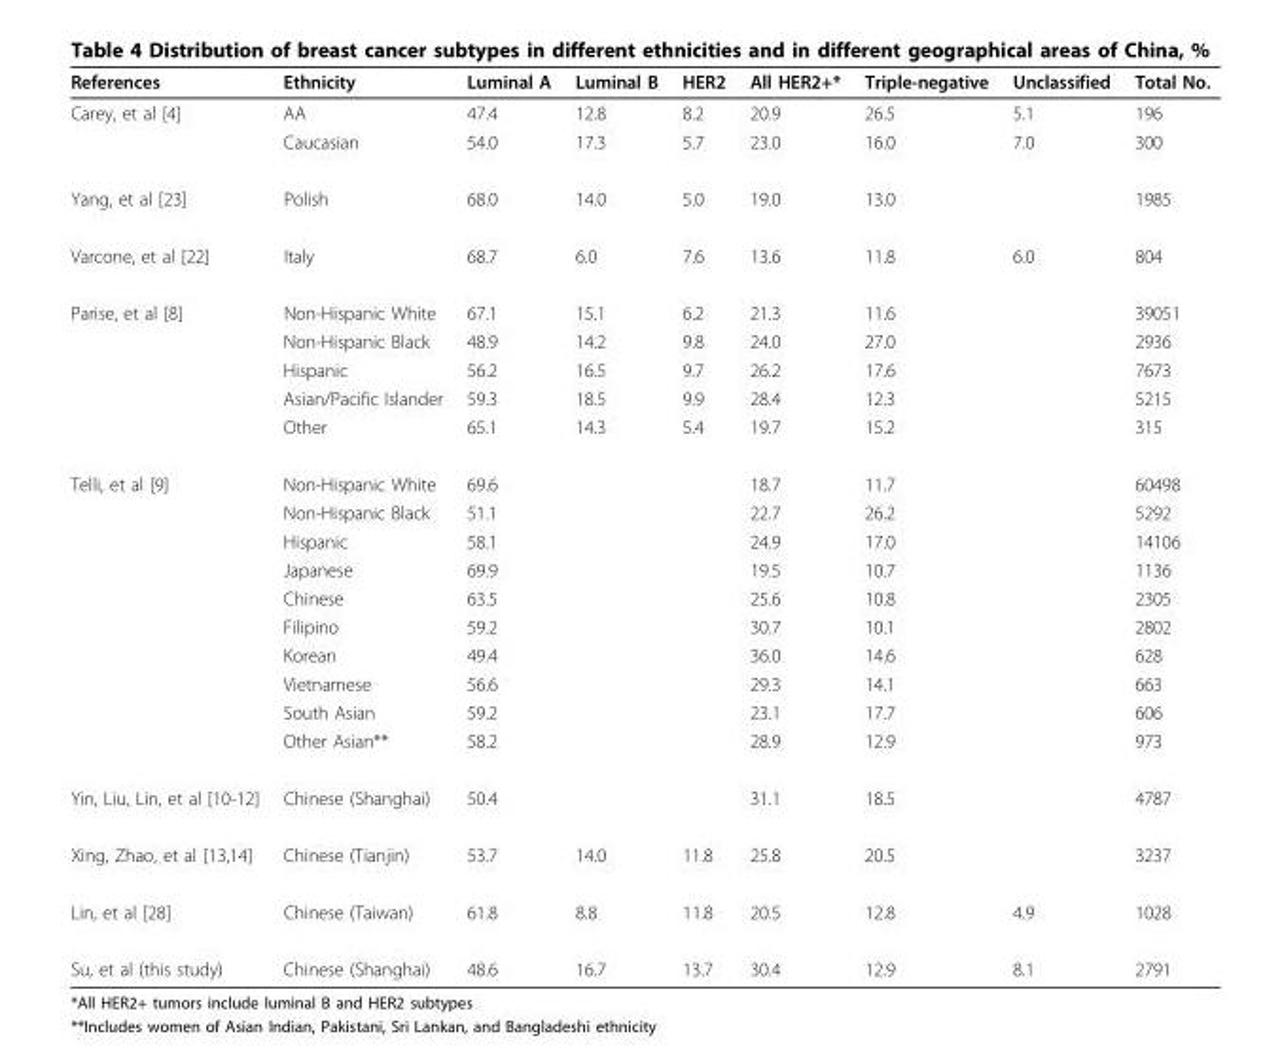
<table><thead><tr><td>References</td><td>Ethnicity</td><td>Luminal A</td><td>Luminal B</td><td>HER2</td><td>All HER2+*</td><td>Triple-negative</td><td>Unclassified</td><td>Total No.</td></tr></thead><tbody><tr><td rowspan="2">Carey, et al [4]</td><td>AA</td><td>47.4</td><td>12.8</td><td>8.2</td><td>20.9</td><td>26.5</td><td>5.1</td><td>196</td></tr><tr><td>Caucasian</td><td>54.0</td><td>17.3</td><td>5.7</td><td>23.0</td><td>16.0</td><td>7.0</td><td>300</td></tr><tr><td>Yang, et al [23]</td><td>Polish</td><td>68.0</td><td>14.0</td><td>5.0</td><td>19.0</td><td>13.0</td><td></td><td>1985</td></tr><tr><td>Varcone, et al [22]</td><td>Italy</td><td>68.7</td><td>6.0</td><td>7.6</td><td>13.6</td><td>11.8</td><td>6.0</td><td>804</td></tr><tr><td rowspan="5">Parise, et al [8]</td><td>Non-Hispanic White</td><td>67.1</td><td>15.1</td><td>6.2</td><td>21.3</td><td>11.6</td><td></td><td>39051</td></tr><tr><td>Non-Hispanic Black</td><td>48.9</td><td>14.2</td><td>9.8</td><td>24.0</td><td>27.0</td><td></td><td>2936</td></tr><tr><td>Hispanic</td><td>56.2</td><td>16.5</td><td>9.7</td><td>26.2</td><td>17.6</td><td></td><td>7673</td></tr><tr><td>Asian/Pacific Islander</td><td>59.3</td><td>18.5</td><td>9.9</td><td>28.4</td><td>12.3</td><td></td><td>5215</td></tr><tr><td>Other</td><td>65.1</td><td>14.3</td><td>5.4</td><td>19.7</td><td>15.2</td><td></td><td>315</td></tr><tr><td rowspan="10">Telli, et al [9]</td><td>Non-Hispanic White</td><td>69.6</td><td></td><td></td><td>18.7</td><td>11.7</td><td></td><td>60498</td></tr><tr><td>Non-Hispanic Black</td><td>51.1</td><td></td><td></td><td>22.7</td><td>26.2</td><td></td><td>5292</td></tr><tr><td>Hispanic</td><td>58.1</td><td></td><td></td><td>24.9</td><td>17.0</td><td></td><td>14106</td></tr><tr><td>Japanese</td><td>69.9</td><td></td><td></td><td>19.5</td><td>10.7</td><td></td><td>1136</td></tr><tr><td>Chinese</td><td>63.5</td><td></td><td></td><td>25.6</td><td>10.8</td><td></td><td>2305</td></tr><tr><td>Filipino</td><td>59.2</td><td></td><td></td><td>30.7</td><td>10.1</td><td></td><td>2802</td></tr><tr><td>Korean</td><td>49.4</td><td></td><td></td><td>36.0</td><td>14.6</td><td></td><td>628</td></tr><tr><td>Vietnamese</td><td>56.6</td><td></td><td></td><td>29.3</td><td>14.1</td><td></td><td>663</td></tr><tr><td>South Asian</td><td>59.2</td><td></td><td></td><td>23.1</td><td>17.7</td><td></td><td>606</td></tr><tr><td>Other Asian**</td><td>58.2</td><td></td><td></td><td>28.9</td><td>12.9</td><td></td><td>973</td></tr><tr><td>Yin, Liu, Lin, et al [10-12]</td><td>Chinese (Shanghai)</td><td>50.4</td><td></td><td></td><td>31.1</td><td>18.5</td><td></td><td>4787</td></tr><tr><td>Xing, Zhao, et al [13,14]</td><td>Chinese (Tianjin)</td><td>53.7</td><td>14.0</td><td>11.8</td><td>25.8</td><td>20.5</td><td></td><td>3237</td></tr><tr><td>Lin, et al [28]</td><td>Chinese (Taiwan)</td><td>61.8</td><td>8.8</td><td>11.8</td><td>20.5</td><td>12.8</td><td>4.9</td><td>1028</td></tr><tr><td>Su, et al (this study)</td><td>Chinese (Shanghai)</td><td>48.6</td><td>16.7</td><td>13.7</td><td>30.4</td><td>12.9</td><td>8.1</td><td>2791</td></tr></tbody></table>